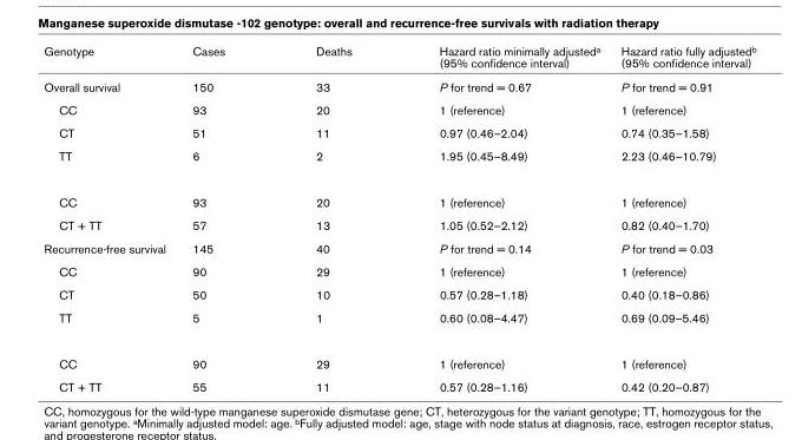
<table><thead><tr><td>Genotype</td><td>Cases</td><td>Deaths</td><td>Hazard ratio minimally adjusteda (95% confidence interval)</td><td>Hazard ratio fully adjustedb (95% confidence interval)</td></tr></thead><tbody><tr><td>Overall survival</td><td>150</td><td>33</td><td>P for trend = 0.67</td><td>P for trend = 0.91</td></tr><tr><td>CC</td><td>93</td><td>20</td><td>1 (reference)</td><td>1 (reference)</td></tr><tr><td>CT</td><td>51</td><td>11</td><td>0.97 (0.46–2.04)</td><td>0.74 (0.35–1.58)</td></tr><tr><td>TT</td><td>6</td><td>2</td><td>1.95 (0.45–8.49)</td><td>2.23 (0.46–10.79)</td></tr><tr><td>CC</td><td>93</td><td>20</td><td>1 (reference)</td><td>1 (reference)</td></tr><tr><td>CT + TT</td><td>57</td><td>13</td><td>1.05 (0.52–2.12)</td><td>0.82 (0.40–1.70)</td></tr><tr><td>Recurrence-free survival</td><td>145</td><td>40</td><td>P for trend = 0.14</td><td>P for trend = 0.03</td></tr><tr><td>CC</td><td>90</td><td>29</td><td>1 (reference)</td><td>1 (reference)</td></tr><tr><td>CT</td><td>50</td><td>10</td><td>0.57 (0.28–1.18)</td><td>0.40 (0.18–0.86)</td></tr><tr><td>TT</td><td>5</td><td>1</td><td>0.60 (0.08–4.47)</td><td>0.69 (0.09–5.46)</td></tr><tr><td>CC</td><td>90</td><td>29</td><td>1 (reference)</td><td>1 (reference)</td></tr><tr><td>CT + TT</td><td>55</td><td>11</td><td>0.57 (0.28–1.16)</td><td>0.42 (0.20–0.87)</td></tr></tbody></table>